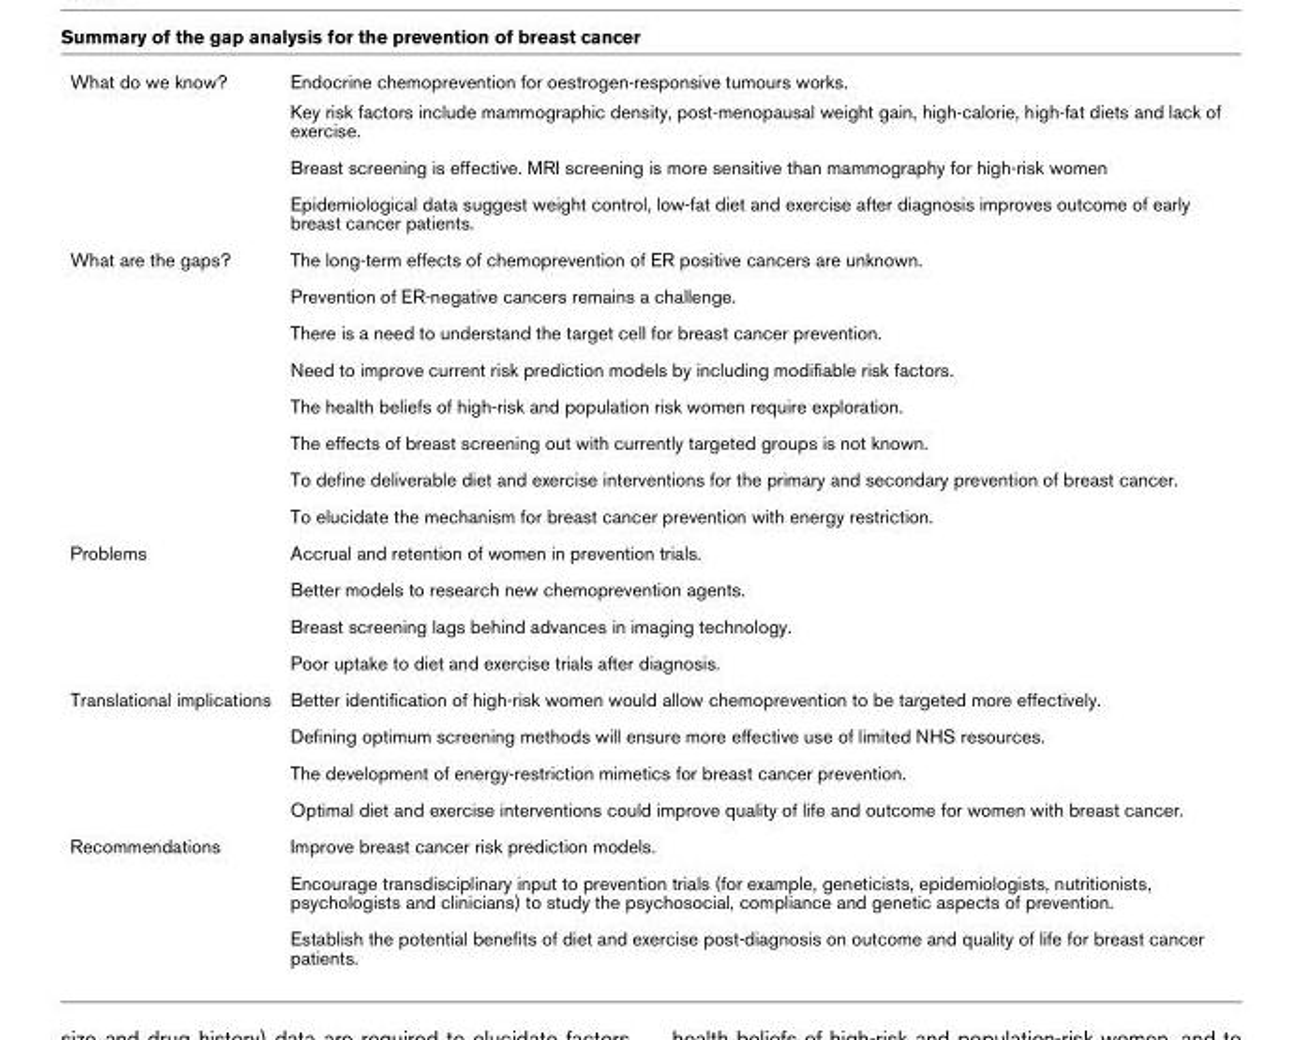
<table><tbody><tr><td rowspan="4">What do we know?</td><td>Endocrine chemoprevention for oestrogen-responsive tumours works.</td></tr><tr><td>Key risk factors include mammographic density, post-menopausal weight gain, high-calorie, high-fat diets and lack of exercise.</td></tr><tr><td>Breast screening is effective. MRI screening is more sensitive than mammography for high-risk women</td></tr><tr><td>Epidemiological data suggest weight control, low-fat diet and exercise after diagnosis improves outcome of early breast cancer patients.</td></tr><tr><td rowspan="8">What are the gaps?</td><td>The long-term effects of chemoprevention of ER positive cancers are unknown.</td></tr><tr><td>Prevention of ER-negative cancers remains a challenge.</td></tr><tr><td>There is a need to understand the target cell for breast cancer prevention.</td></tr><tr><td>Need to improve current risk prediction models by including modifiable risk factors.</td></tr><tr><td>The health beliefs of high-risk and population risk women require exploration.</td></tr><tr><td>The effects of breast screening out with currently targeted groups is not known.</td></tr><tr><td>To define deliverable diet and exercise interventions for the primary and secondary prevention of breast cancer.</td></tr><tr><td>To elucidate the mechanism for breast cancer prevention with energy restriction.</td></tr><tr><td rowspan="4">Problems</td><td>Accrual and retention of women in prevention trials.</td></tr><tr><td>Better models to research new chemoprevention agents.</td></tr><tr><td>Breast screening lags behind advances in imaging technology.</td></tr><tr><td>Poor uptake to diet and exercise trials after diagnosis.</td></tr><tr><td rowspan="4">Translational implications</td><td>Better identification of high-risk women would allow chemoprevention to be targeted more effectively.</td></tr><tr><td>Defining optimum screening methods will ensure more effective use of limited NHS resources.</td></tr><tr><td>The development of energy-restriction mimetics for breast cancer prevention.</td></tr><tr><td>Optimal diet and exercise interventions could improve quality of life and outcome for women with breast cancer.</td></tr><tr><td rowspan="3">Recommendations</td><td>Improve breast cancer risk prediction models.</td></tr><tr><td>Encourage transdisciplinary input to prevention trials (for example, geneticists, epidemiologists, nutritionists, psychologists and clinicians) to study the psychosocial, compliance and genetic aspects of prevention.</td></tr><tr><td>Establish the potential benefits of diet and exercise post-diagnosis on outcome and quality of life for breast cancer patients.</td></tr></tbody></table>